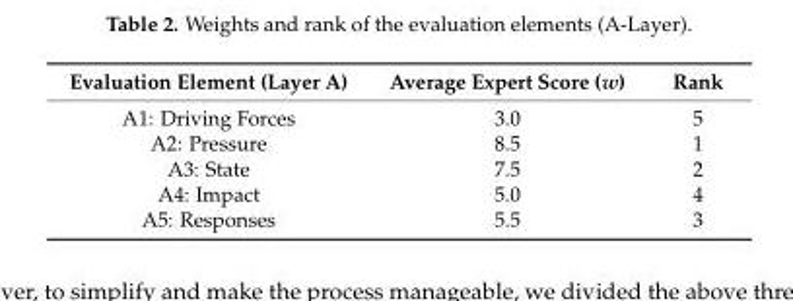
<table><thead><tr><td>Evaluation Element (Layer A)</td><td>Average Expert Score (w)</td><td>Rank</td></tr></thead><tbody><tr><td>A1: Driving Forces</td><td>3.0</td><td>5</td></tr><tr><td>A2: Pressure</td><td>8.5</td><td>1</td></tr><tr><td>A3: State</td><td>7.5</td><td>2</td></tr><tr><td>A4: Impact</td><td>5.0</td><td>4</td></tr><tr><td>A5: Responses</td><td>5.5</td><td>3</td></tr></tbody></table>